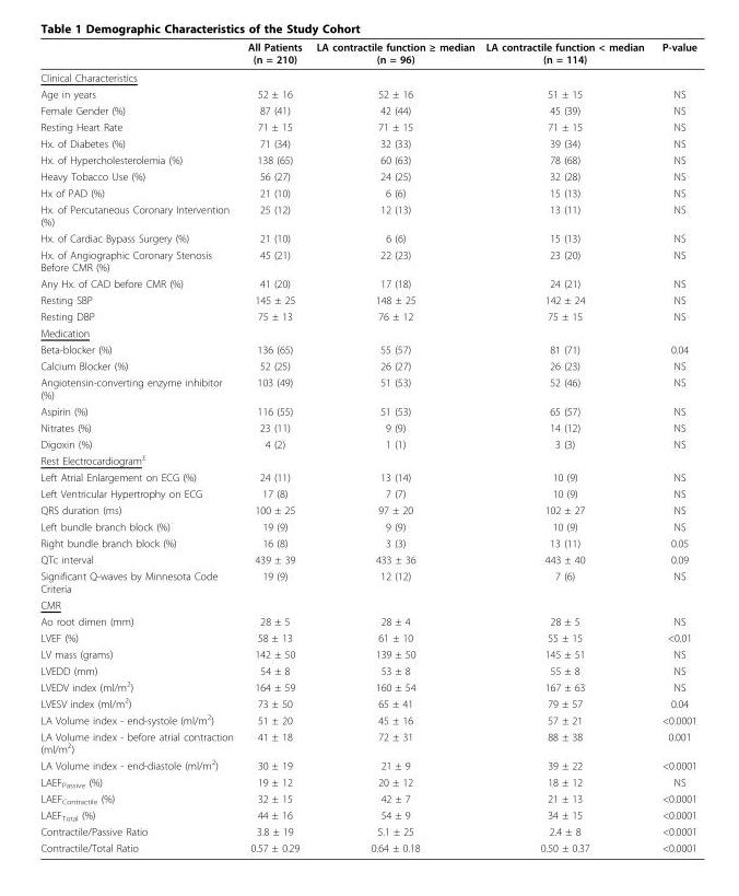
<table><thead><tr><td></td><td>All Patients (n = 210)</td><td>LA contractile function ≥ median (n = 96)</td><td>LA contractile function &lt; median (n = 114)</td><td>P-value</td></tr></thead><tbody><tr><td colspan="5">Clinical Characteristics</td></tr><tr><td>Age in years</td><td>52 ± 16</td><td>52 ± 16</td><td>51 ± 15</td><td>NS</td></tr><tr><td>Female Gender (%)</td><td>87 (41)</td><td>42 (44)</td><td>45 (39)</td><td>NS</td></tr><tr><td>Resting Heart Rate</td><td>71 ± 15</td><td>71 ± 15</td><td>71 ± 15</td><td>NS</td></tr><tr><td>Hx. of Diabetes (%)</td><td>71 (34)</td><td>32 (33)</td><td>39 (34)</td><td>NS</td></tr><tr><td>Hx. of Hypercholesterolemia (%)</td><td>138 (65)</td><td>60 (63)</td><td>78 (68)</td><td>NS</td></tr><tr><td>Heavy Tobacco Use (%)</td><td>56 (27)</td><td>24 (25)</td><td>32 (28)</td><td>NS</td></tr><tr><td>Hx of PAD (%)</td><td>21 (10)</td><td>6 (6)</td><td>15 (13)</td><td>NS</td></tr><tr><td>Hx. of Percutaneous Coronary Intervention (%)</td><td>25 (12)</td><td>12 (13)</td><td>13 (11)</td><td>NS</td></tr><tr><td>Hx. of Cardiac Bypass Surgery (%)</td><td>21 (10)</td><td>6 (6)</td><td>15 (13)</td><td>NS</td></tr><tr><td>Hx. of Angiographic Coronary Stenosis Before CMR (%)</td><td>45 (21)</td><td>22 (23)</td><td>23 (20)</td><td>NS</td></tr><tr><td>Any Hx. of CAD before CMR (%)</td><td>41 (20)</td><td>17 (18)</td><td>24 (21)</td><td>NS</td></tr><tr><td>Resting SBP</td><td>145 ± 25</td><td>148 ± 25</td><td>142 ± 24</td><td>NS</td></tr><tr><td>Resting DBP</td><td>75 ± 13</td><td>76 ± 12</td><td>75 ± 15</td><td>NS</td></tr><tr><td colspan="5">Medication</td></tr><tr><td>Beta-blocker (%)</td><td>136 (65)</td><td>55 (57)</td><td>81 (71)</td><td>0.04</td></tr><tr><td>Calcium Blocker (%)</td><td>52 (25)</td><td>26 (27)</td><td>26 (23)</td><td>NS</td></tr><tr><td>Angiotensin-converting enzyme inhibitor (%)</td><td>103 (49)</td><td>51 (53)</td><td>52 (46)</td><td>NS</td></tr><tr><td>Aspirin (%)</td><td>116 (55)</td><td>51 (53)</td><td>65 (57)</td><td>NS</td></tr><tr><td>Nitrates (%)</td><td>23 (11)</td><td>9 (9)</td><td>14 (12)</td><td>NS</td></tr><tr><td>Digoxin (%)</td><td>4 (2)</td><td>1 (1)</td><td>3 (3)</td><td>NS</td></tr><tr><td colspan="5">Rest Electrocardiogram<sup>£</sup></td></tr><tr><td>Left Atrial Enlargement on ECG (%)</td><td>24 (11)</td><td>13 (14)</td><td>10 (9)</td><td>NS</td></tr><tr><td>Left Ventricular Hypertrophy on ECG</td><td>17 (8)</td><td>7 (7)</td><td>10 (9)</td><td>NS</td></tr><tr><td>QRS duration (ms)</td><td>100 ± 25</td><td>97 ± 20</td><td>102 ± 27</td><td>NS</td></tr><tr><td>Left bundle branch block (%)</td><td>19 (9)</td><td>9 (9)</td><td>10 (9)</td><td>NS</td></tr><tr><td>Right bundle branch block (%)</td><td>16 (8)</td><td>3 (3)</td><td>13 (11)</td><td>0.05</td></tr><tr><td>QTc interval</td><td>439 ± 39</td><td>433 ± 36</td><td>443 ± 40</td><td>0.09</td></tr><tr><td>Significant Q-waves by Minnesota Code Criteria</td><td>19 (9)</td><td>12 (12)</td><td>7 (6)</td><td>NS</td></tr><tr><td colspan="5">CMR</td></tr><tr><td>Ao root dimen (mm)</td><td>28 ± 5</td><td>28 ± 4</td><td>28 ± 5</td><td>NS</td></tr><tr><td>LVEF (%)</td><td>58 ± 13</td><td>61 ± 10</td><td>55 ± 15</td><td>&lt;0.01</td></tr><tr><td>LV mass (grams)</td><td>142 ± 50</td><td>139 ± 50</td><td>145 ± 51</td><td>NS</td></tr><tr><td>LVEDD (mm)</td><td>54 ± 8</td><td>53 ± 8</td><td>55 ± 8</td><td>NS</td></tr><tr><td>LVEDV index (ml/m<sup>2</sup>)</td><td>164 ± 59</td><td>160 ± 54</td><td>167 ± 63</td><td>NS</td></tr><tr><td>LVESV index (ml/m<sup>2</sup>)</td><td>73 ± 50</td><td>65 ± 41</td><td>79 ± 57</td><td>0.04</td></tr><tr><td>LA Volume index - end-systole (ml/m<sup>2</sup>)</td><td>51 ± 20</td><td>45 ± 16</td><td>57 ± 21</td><td>&lt;0.0001</td></tr><tr><td>LA Volume index - before atrial contraction (ml/m<sup>2</sup>)</td><td>41 ± 18</td><td>72 ± 31</td><td>88 ± 38</td><td>0.001</td></tr><tr><td>LA Volume index - end-diastole (ml/m<sup>2</sup>)</td><td>30 ± 19</td><td>21 ± 9</td><td>39 ± 22</td><td>&lt;0.0001</td></tr><tr><td>LAEF<sub>Passive</sub> (%)</td><td>19 ± 12</td><td>20 ± 12</td><td>18 ± 12</td><td>NS</td></tr><tr><td>LAEF<sub>Contractile</sub> (%)</td><td>32 ± 15</td><td>42 ± 7</td><td>21 ± 13</td><td>&lt;0.0001</td></tr><tr><td>LAEF<sub>Total</sub> (%)</td><td>44 ± 16</td><td>54 ± 9</td><td>34 ± 15</td><td>&lt;0.0001</td></tr><tr><td>Contractile/Passive Ratio</td><td>3.8 ± 19</td><td>5.1 ± 25</td><td>2.4 ± 8</td><td>&lt;0.0001</td></tr><tr><td>Contractile/Total Ratio</td><td>0.57 ± 0.29</td><td>0.64 ± 0.18</td><td>0.50 ± 0.37</td><td>&lt;0.0001</td></tr></tbody></table>